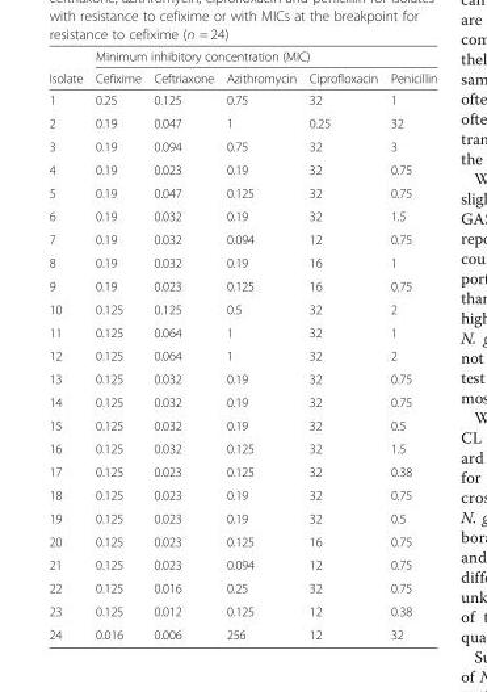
<table><thead><tr><td rowspan="2">Isolate</td><td colspan="5">Minimum inhibitory concentration (MIC)</td></tr><tr><td>Cefixime</td><td>Ceftriaxone</td><td>Azithromycin</td><td>Ciprofloxacin</td><td>Penicillin</td></tr></thead><tbody><tr><td>1</td><td>0.25</td><td>0.125</td><td>0.75</td><td>32</td><td>1</td></tr><tr><td>2</td><td>0.19</td><td>0.047</td><td>1</td><td>0.25</td><td>32</td></tr><tr><td>3</td><td>0.19</td><td>0.094</td><td>0.75</td><td>32</td><td>3</td></tr><tr><td>4</td><td>0.19</td><td>0.023</td><td>0.19</td><td>32</td><td>0.75</td></tr><tr><td>5</td><td>0.19</td><td>0.047</td><td>0.125</td><td>32</td><td>0.75</td></tr><tr><td>6</td><td>0.19</td><td>0.032</td><td>0.19</td><td>32</td><td>1.5</td></tr><tr><td>7</td><td>0.19</td><td>0.032</td><td>0.094</td><td>12</td><td>0.75</td></tr><tr><td>8</td><td>0.19</td><td>0.032</td><td>0.19</td><td>16</td><td>1</td></tr><tr><td>9</td><td>0.19</td><td>0.023</td><td>0.125</td><td>16</td><td>0.75</td></tr><tr><td>10</td><td>0.125</td><td>0.125</td><td>0.5</td><td>32</td><td>2</td></tr><tr><td>11</td><td>0.125</td><td>0.064</td><td>1</td><td>32</td><td>1</td></tr><tr><td>12</td><td>0.125</td><td>0.064</td><td>1</td><td>32</td><td>2</td></tr><tr><td>13</td><td>0.125</td><td>0.032</td><td>0.19</td><td>32</td><td>0.75</td></tr><tr><td>14</td><td>0.125</td><td>0.032</td><td>0.19</td><td>32</td><td>0.75</td></tr><tr><td>15</td><td>0.125</td><td>0.032</td><td>0.19</td><td>32</td><td>0.5</td></tr><tr><td>16</td><td>0.125</td><td>0.032</td><td>0.125</td><td>32</td><td>1.5</td></tr><tr><td>17</td><td>0.125</td><td>0.023</td><td>0.125</td><td>32</td><td>0.38</td></tr><tr><td>18</td><td>0.125</td><td>0.023</td><td>0.19</td><td>32</td><td>0.75</td></tr><tr><td>19</td><td>0.125</td><td>0.023</td><td>0.19</td><td>32</td><td>0.5</td></tr><tr><td>20</td><td>0.125</td><td>0.023</td><td>0.125</td><td>16</td><td>0.75</td></tr><tr><td>21</td><td>0.125</td><td>0.023</td><td>0.094</td><td>12</td><td>0.75</td></tr><tr><td>22</td><td>0.125</td><td>0.016</td><td>0.25</td><td>32</td><td>0.75</td></tr><tr><td>23</td><td>0.125</td><td>0.012</td><td>0.125</td><td>12</td><td>0.38</td></tr><tr><td>24</td><td>0.016</td><td>0.006</td><td>256</td><td>12</td><td>32</td></tr></tbody></table>